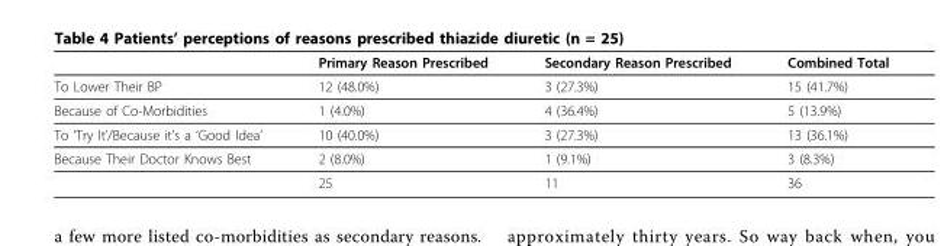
<table><thead><tr><td></td><td>Primary Reason Prescribed</td><td>Secondary Reason Prescribed</td><td>Combined Total</td></tr></thead><tbody><tr><td>To Lower Their BP</td><td>12 (48.0%)</td><td>3 (27.3%)</td><td>15 (41.7%)</td></tr><tr><td>Because of Co-Morbidities</td><td>1 (4.0%)</td><td>4 (36.4%)</td><td>5 (13.9%)</td></tr><tr><td>To ‘Try It’/Because it’s a ‘Good Idea’</td><td>10 (40.0%)</td><td>3 (27.3%)</td><td>13 (36.1%)</td></tr><tr><td rowspan="2">Because Their Doctor Knows Best</td><td>2 (8.0%)</td><td>1 (9.1%)</td><td>3 (8.3%)</td></tr><tr><td>25</td><td>11</td><td>36</td></tr></tbody></table>